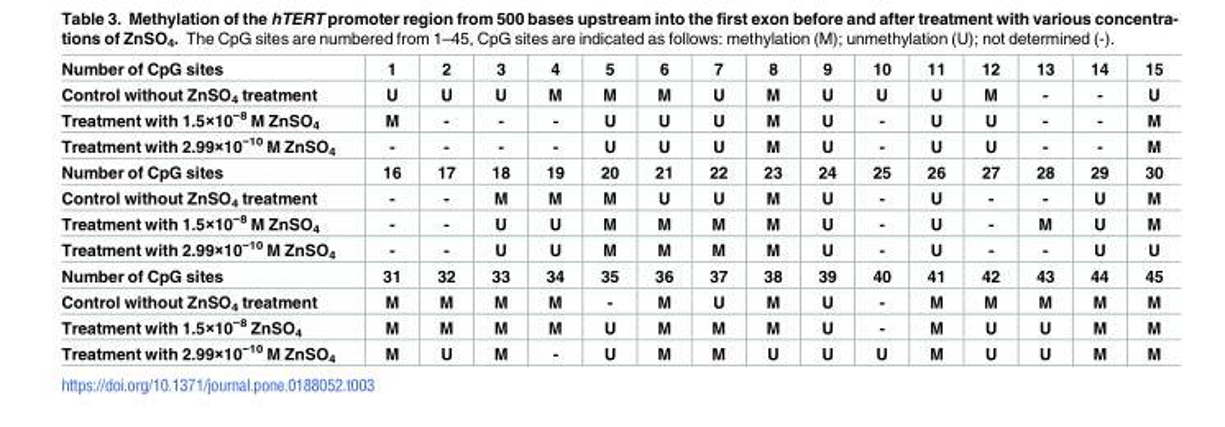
<table><tbody><tr><td>Number of CpG sites</td><td>1</td><td>2</td><td>3</td><td>4</td><td>5</td><td>6</td><td>7</td><td>8</td><td>9</td><td>10</td><td>11</td><td>12</td><td>13</td><td>14</td><td>15</td></tr><tr><td>Control without ZnSO4 treatment</td><td>U</td><td>U</td><td>U</td><td>M</td><td>M</td><td>M</td><td>U</td><td>M</td><td>U</td><td>U</td><td>U</td><td>M</td><td>-</td><td>-</td><td>U</td></tr><tr><td>Treatment with 1.5×10−8 M ZnSO4</td><td>M</td><td>-</td><td>-</td><td>-</td><td>U</td><td>U</td><td>U</td><td>M</td><td>U</td><td>-</td><td>U</td><td>U</td><td>-</td><td>-</td><td>M</td></tr><tr><td>Treatment with 2.99×10−10 M ZnSO4</td><td>-</td><td>-</td><td>-</td><td>-</td><td>U</td><td>U</td><td>U</td><td>M</td><td>U</td><td>-</td><td>U</td><td>U</td><td>-</td><td>-</td><td>M</td></tr><tr><td>Number of CpG sites</td><td>16</td><td>17</td><td>18</td><td>19</td><td>20</td><td>21</td><td>22</td><td>23</td><td>24</td><td>25</td><td>26</td><td>27</td><td>28</td><td>29</td><td>30</td></tr><tr><td>Control without ZnSO4 treatment</td><td>-</td><td>-</td><td>M</td><td>M</td><td>M</td><td>U</td><td>U</td><td>M</td><td>U</td><td>-</td><td>U</td><td>-</td><td>-</td><td>U</td><td>M</td></tr><tr><td>Treatment with 1.5×10−8 M ZnSO4</td><td>-</td><td>-</td><td>U</td><td>U</td><td>M</td><td>M</td><td>M</td><td>M</td><td>U</td><td>-</td><td>U</td><td>-</td><td>M</td><td>U</td><td>M</td></tr><tr><td>Treatment with 2.99×10−10 M ZnSO4</td><td>-</td><td>-</td><td>U</td><td>U</td><td>M</td><td>M</td><td>M</td><td>M</td><td>U</td><td>-</td><td>U</td><td>-</td><td>-</td><td>U</td><td>U</td></tr><tr><td>Number of CpG sites</td><td>31</td><td>32</td><td>33</td><td>34</td><td>35</td><td>36</td><td>37</td><td>38</td><td>39</td><td>40</td><td>41</td><td>42</td><td>43</td><td>44</td><td>45</td></tr><tr><td>Control without ZnSO4 treatment</td><td>M</td><td>M</td><td>M</td><td>M</td><td>-</td><td>M</td><td>U</td><td>M</td><td>U</td><td>-</td><td>M</td><td>M</td><td>M</td><td>M</td><td>M</td></tr><tr><td>Treatment with 1.5×10−8 ZnSO4</td><td>M</td><td>M</td><td>M</td><td>M</td><td>U</td><td>M</td><td>M</td><td>M</td><td>U</td><td>-</td><td>M</td><td>U</td><td>U</td><td>M</td><td>M</td></tr><tr><td>Treatment with 2.99×10−10 M ZnSO4</td><td>M</td><td>U</td><td>M</td><td>-</td><td>U</td><td>M</td><td>M</td><td>U</td><td>U</td><td>U</td><td>M</td><td>U</td><td>U</td><td>M</td><td>M</td></tr></tbody></table>